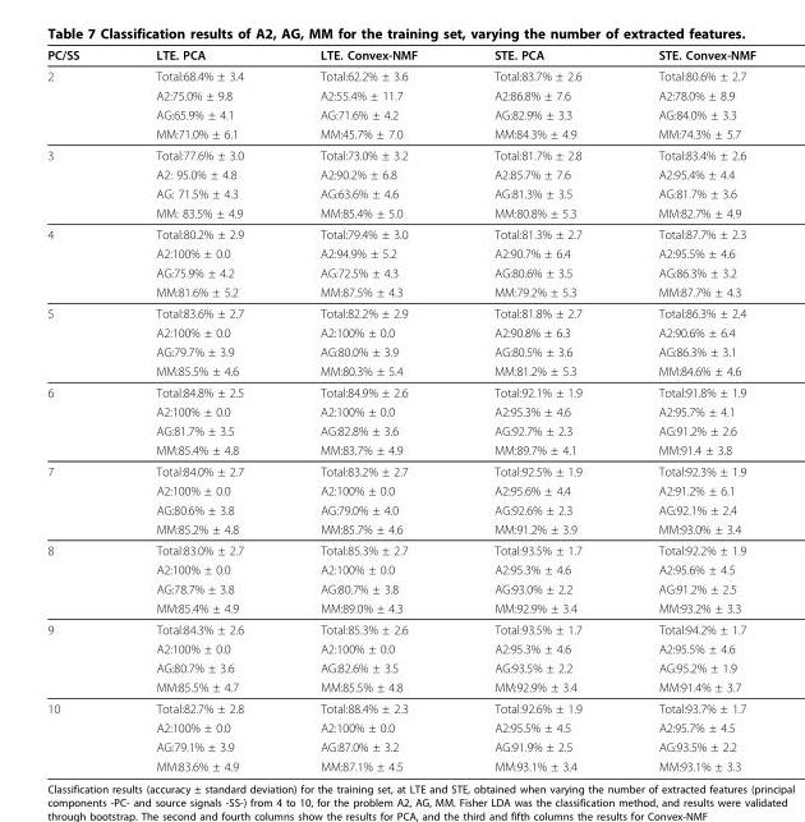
<table><thead><tr><td>PC/SS</td><td>LTE. PCA</td><td>LTE. Convex-NMF</td><td>STE. PCA</td><td>STE. Convex-NMF</td></tr></thead><tbody><tr><td rowspan="4">2</td><td>Total:68.4% ± 3.4</td><td>Total:62.2% ± 3.6</td><td>Total:83.7% ± 2.6</td><td>Total:80.6% ± 2.7</td></tr><tr><td>A2:75.0% ± 9.8</td><td>A2:55.4% ± 11.7</td><td>A2:86.8% ± 7.6</td><td>A2:78.0% ± 8.9</td></tr><tr><td>AG:65.9% ± 4.1</td><td>AG:71.6% ± 4.2</td><td>AG:82.9% ± 3.3</td><td>AG:84.0% ± 3.3</td></tr><tr><td>MM:71.0% ± 6.1</td><td>MM:45.7% ± 7.0</td><td>MM:84.3% ± 4.9</td><td>MM:74.3% ± 5.7</td></tr><tr><td rowspan="4">3</td><td>Total:77.6% ± 3.0</td><td>Total:73.0% ± 3.2</td><td>Total:81.7% ± 2.8</td><td>Total:83.4% ± 2.6</td></tr><tr><td>A2: 95.0% ± 4.8</td><td>A2:90.2% ± 6.8</td><td>A2:85.7% ± 7.6</td><td>A2:95.4% ± 4.4</td></tr><tr><td>AG: 71.5% ± 4.3</td><td>AG:63.6% ± 4.6</td><td>AG:81.3% ± 3.5</td><td>AG:81.7% ± 3.6</td></tr><tr><td>MM: 83.5% ± 4.9</td><td>MM:85.4% ± 5.0</td><td>MM:80.8% ± 5.3</td><td>MM:82.7% ± 4.9</td></tr><tr><td rowspan="4">4</td><td>Total:80.2% ± 2.9</td><td>Total:79.4% ± 3.0</td><td>Total:81.3% ± 2.7</td><td>Total:87.7% ± 2.3</td></tr><tr><td>A2:100% ± 0.0</td><td>A2:94.9% ± 5.2</td><td>A2:90.7% ± 6.4</td><td>A2:95.5% ± 4.6</td></tr><tr><td>AG:75.9% ± 4.2</td><td>AG:72.5% ± 4.3</td><td>AG:80.6% ± 3.5</td><td>AG:86.3% ± 3.2</td></tr><tr><td>MM:81.6% ± 5.2</td><td>MM:87.5% ± 4.3</td><td>MM:79.2% ± 5.3</td><td>MM:87.7% ± 4.3</td></tr><tr><td rowspan="4">5</td><td>Total:83.6% ± 2.7</td><td>Total:82.2% ± 2.9</td><td>Total:81.8% ± 2.7</td><td>Total:86.3% ± 2.4</td></tr><tr><td>A2:100% ± 0.0</td><td>A2:100% ± 0.0</td><td>A2:90.8% ± 6.3</td><td>A2:90.6% ± 6.4</td></tr><tr><td>AG:79.7% ± 3.9</td><td>AG:80.0% ± 3.9</td><td>AG:80.5% ± 3.6</td><td>AG:86.3% ± 3.1</td></tr><tr><td>MM:85.5% ± 4.6</td><td>MM:80.3% ± 5.4</td><td>MM:81.2% ± 5.3</td><td>MM:84.6% ± 4.6</td></tr><tr><td rowspan="4">6</td><td>Total:84.8% ± 2.5</td><td>Total:84.9% ± 2.6</td><td>Total:92.1% ± 1.9</td><td>Total:91.8% ± 1.9</td></tr><tr><td>A2:100% ± 0.0</td><td>A2:100% ± 0.0</td><td>A2:95.3% ± 4.6</td><td>A2:95.7% ± 4.1</td></tr><tr><td>AG:81.7% ± 3.5</td><td>AG:82.8% ± 3.6</td><td>AG:92.7% ± 2.3</td><td>AG:91.2% ± 2.6</td></tr><tr><td>MM:85.4% ± 4.8</td><td>MM:83.7% ± 4.9</td><td>MM:89.7% ± 4.1</td><td>MM:91.4 ± 3.8</td></tr><tr><td rowspan="4">7</td><td>Total:84.0% ± 2.7</td><td>Total:83.2% ± 2.7</td><td>Total:92.5% ± 1.9</td><td>Total:92.3% ± 1.9</td></tr><tr><td>A2:100% ± 0.0</td><td>A2:100% ± 0.0</td><td>A2:95.6% ± 4.4</td><td>A2:91.2% ± 6.1</td></tr><tr><td>AG:80.6% ± 3.8</td><td>AG:79.0% ± 4.0</td><td>AG:92.6% ± 2.3</td><td>AG:92.1% ± 2.4</td></tr><tr><td>MM:85.2% ± 4.8</td><td>MM:85.7% ± 4.6</td><td>MM:91.2% ± 3.9</td><td>MM:93.0% ± 3.4</td></tr><tr><td rowspan="4">8</td><td>Total:83.0% ± 2.7</td><td>Total:85.3% ± 2.7</td><td>Total:93.5% ± 1.7</td><td>Total:92.2% ± 1.9</td></tr><tr><td>A2:100% ± 0.0</td><td>A2:100% ± 0.0</td><td>A2:95.3% ± 4.6</td><td>A2:95.6% ± 4.5</td></tr><tr><td>AG:78.7% ± 3.8</td><td>AG:80.7% ± 3.8</td><td>AG:93.0% ± 2.2</td><td>AG:91.2% ± 2.5</td></tr><tr><td>MM:85.4% ± 4.9</td><td>MM:89.0% ± 4.3</td><td>MM:92.9% ± 3.4</td><td>MM:93.2% ± 3.3</td></tr><tr><td rowspan="4">9</td><td>Total:84.3% ± 2.6</td><td>Total:85.3% ± 2.6</td><td>Total:93.5% ± 1.7</td><td>Total:94.2% ± 1.7</td></tr><tr><td>A2:100% ± 0.0</td><td>A2:100% ± 0.0</td><td>A2:95.3% ± 4.6</td><td>A2:95.5% ± 4.6</td></tr><tr><td>AG:80.7% ± 3.6</td><td>AG:82.6% ± 3.5</td><td>AG:93.5% ± 2.2</td><td>AG:95.2% ± 1.9</td></tr><tr><td>MM:85.5% ± 4.7</td><td>MM:85.5% ± 4.8</td><td>MM:92.9% ± 3.4</td><td>MM:91.4% ± 3.7</td></tr><tr><td rowspan="4">10</td><td>Total:82.7% ± 2.8</td><td>Total:88.4% ± 2.3</td><td>Total:92.6% ± 1.9</td><td>Total:93.7% ± 1.7</td></tr><tr><td>A2:100% ± 0.0</td><td>A2:100% ± 0.0</td><td>A2:95.5% ± 4.5</td><td>A2:95.7% ± 4.5</td></tr><tr><td>AG:79.1% ± 3.9</td><td>AG:87.0% ± 3.2</td><td>AG:91.9% ± 2.5</td><td>AG:93.5% ± 2.2</td></tr><tr><td>MM:83.6% ± 4.9</td><td>MM:87.1% ± 4.5</td><td>MM:93.1% ± 3.4</td><td>MM:93.1% ± 3.3</td></tr></tbody></table>